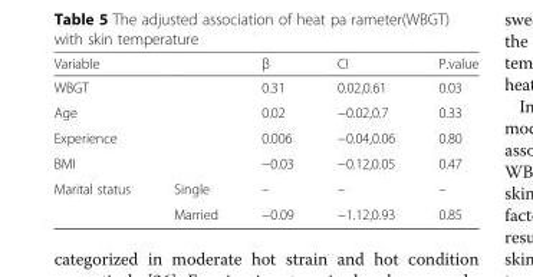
<table><thead><tr><td>Variable</td><td></td><td>β</td><td>CI</td><td>P.value</td></tr></thead><tbody><tr><td>WBGT</td><td></td><td>0.31</td><td>0.02,0.61</td><td>0.03</td></tr><tr><td>Age</td><td></td><td>0.02</td><td>−0.02,0.7</td><td>0.33</td></tr><tr><td>Experience</td><td></td><td>0.006</td><td>−0.04,0.06</td><td>0.80</td></tr><tr><td>BMI</td><td></td><td>−0.03</td><td>−0.12,0.05</td><td>0.47</td></tr><tr><td rowspan="2">Marital status</td><td>Single</td><td>–</td><td>–</td><td>–</td></tr><tr><td>Married</td><td>−0.09</td><td>−1.12,0.93</td><td>0.85</td></tr></tbody></table>